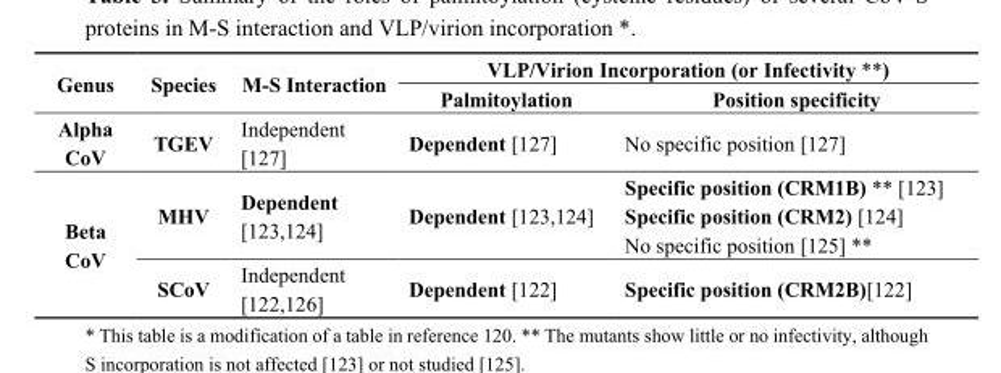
<table><thead><tr><td rowspan="2">Genus</td><td rowspan="2">Species</td><td rowspan="2">M-S Interaction</td><td colspan="2">VLP/Virion Incorporation (or Infectivity **)</td></tr><tr><td>Palmitoylation</td><td>Position specificity</td></tr></thead><tbody><tr><td>Alpha CoV</td><td>TGEV</td><td>Independent [127]</td><td>Dependent [127]</td><td>No specific position [127]</td></tr><tr><td rowspan="2">Beta CoV</td><td>MHV</td><td>Dependent [123,124]</td><td>Dependent [123,124]</td><td>Specific position (CRM1B) ** [123] Specific position (CRM2) [124] No specific position [125] **</td></tr><tr><td>SCoV</td><td>Independent [122,126]</td><td>Dependent [122]</td><td>Specific position (CRM2B)[122]</td></tr></tbody></table>